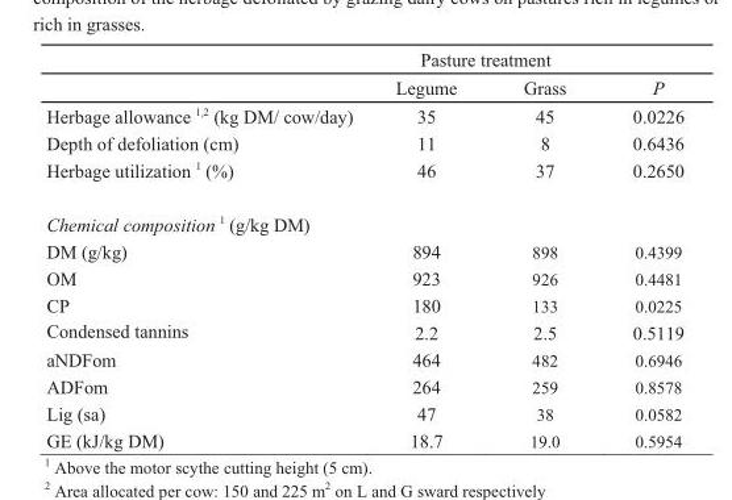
<table><thead><tr><td rowspan="2"></td><td colspan="2">Pasture treatment</td><td rowspan="2">P</td></tr><tr><td>Legume</td><td>Grass</td></tr></thead><tbody><tr><td>Herbage allowance <sup>1,2</sup> (kg DM/ cow/day)</td><td>35</td><td>45</td><td>0.0226</td></tr><tr><td>Depth of defoliation (cm)</td><td>11</td><td>8</td><td>0.6436</td></tr><tr><td>Herbage utilization <sup>1</sup> (%)</td><td>46</td><td>37</td><td>0.2650</td></tr><tr><td colspan="4">Chemical composition <sup>1</sup> (g/kg DM)</td></tr><tr><td>DM (g/kg)</td><td>894</td><td>898</td><td>0.4399</td></tr><tr><td>OM</td><td>923</td><td>926</td><td>0.4481</td></tr><tr><td>CP</td><td>180</td><td>133</td><td>0.0225</td></tr><tr><td>Condensed tannins</td><td>2.2</td><td>2.5</td><td>0.5119</td></tr><tr><td>aNDFom</td><td>464</td><td>482</td><td>0.6946</td></tr><tr><td>ADFom</td><td>264</td><td>259</td><td>0.8578</td></tr><tr><td>Lig (sa)</td><td>47</td><td>38</td><td>0.0582</td></tr><tr><td>GE (kJ/kg DM)</td><td>18.7</td><td>19.0</td><td>0.5954</td></tr></tbody></table>